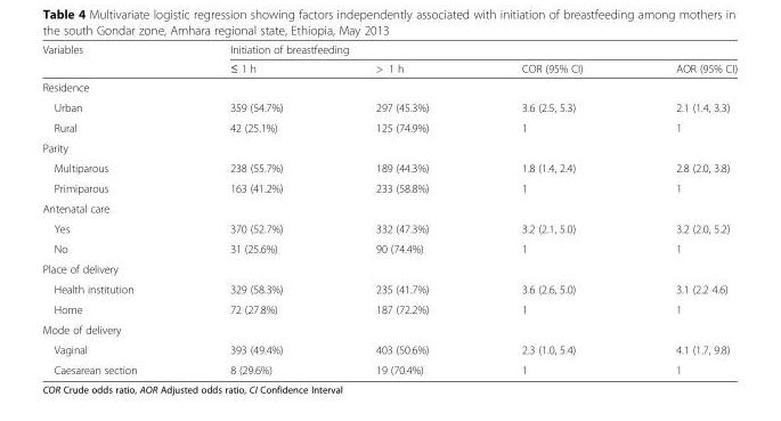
<table><thead><tr><td rowspan="2">Variables</td><td colspan="4">Initiation of breastfeeding</td></tr><tr><td>≤ 1 h</td><td>&gt; 1 h</td><td>COR (95% CI)</td><td>AOR (95% CI)</td></tr></thead><tbody><tr><td colspan="5">Residence</td></tr><tr><td>Urban</td><td>359 (54.7%)</td><td>297 (45.3%)</td><td>3.6 (2.5, 5.3)</td><td>2.1 (1.4, 3.3)</td></tr><tr><td>Rural</td><td>42 (25.1%)</td><td>125 (74.9%)</td><td>1</td><td>1</td></tr><tr><td colspan="5">Parity</td></tr><tr><td>Multiparous</td><td>238 (55.7%)</td><td>189 (44.3%)</td><td>1.8 (1.4, 2.4)</td><td>2.8 (2.0, 3.8)</td></tr><tr><td>Primiparous</td><td>163 (41.2%)</td><td>233 (58.8%)</td><td>1</td><td>1</td></tr><tr><td colspan="5">Antenatal care</td></tr><tr><td>Yes</td><td>370 (52.7%)</td><td>332 (47.3%)</td><td>3.2 (2.1, 5.0)</td><td>3.2 (2.0, 5.2)</td></tr><tr><td>No</td><td>31 (25.6%)</td><td>90 (74.4%)</td><td>1</td><td>1</td></tr><tr><td colspan="5">Place of delivery</td></tr><tr><td>Health institution</td><td>329 (58.3%)</td><td>235 (41.7%)</td><td>3.6 (2.6, 5.0)</td><td>3.1 (2.2 4.6)</td></tr><tr><td>Home</td><td>72 (27.8%)</td><td>187 (72.2%)</td><td>1</td><td>1</td></tr><tr><td colspan="5">Mode of delivery</td></tr><tr><td>Vaginal</td><td>393 (49.4%)</td><td>403 (50.6%)</td><td>2.3 (1.0, 5.4)</td><td>4.1 (1.7, 9.8)</td></tr><tr><td>Caesarean section</td><td>8 (29.6%)</td><td>19 (70.4%)</td><td>1</td><td>1</td></tr></tbody></table>